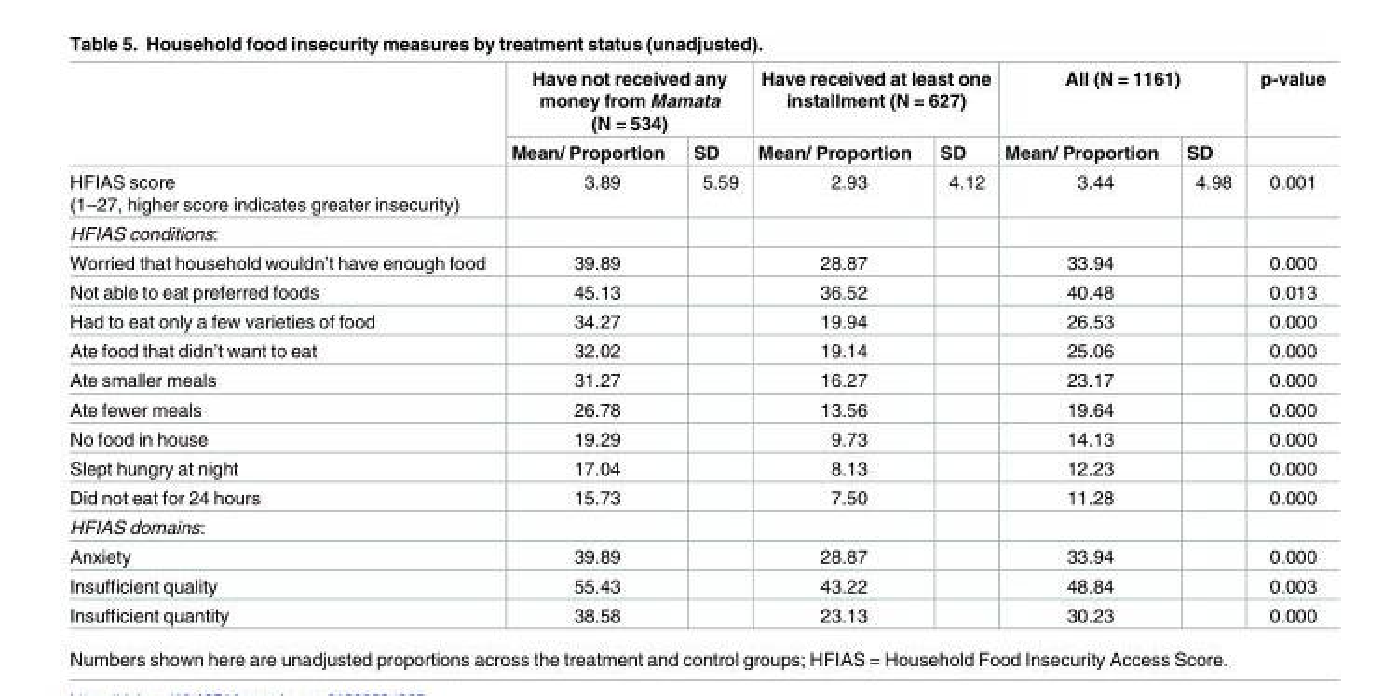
<table><thead><tr><td rowspan="2"></td><td colspan="2">Have not received any money from Mamata (N = 534)</td><td colspan="2">Have received at least one installment (N = 627)</td><td colspan="2">All (N = 1161)</td><td rowspan="2">p-value</td></tr><tr><td>Mean/ Proportion</td><td>SD</td><td>Mean/ Proportion</td><td>SD</td><td>Mean/ Proportion</td><td>SD</td></tr></thead><tbody><tr><td>HFIAS score (1–27, higher score indicates greater insecurity)</td><td>3.89</td><td>5.59</td><td>2.93</td><td>4.12</td><td>3.44</td><td>4.98</td><td>0.001</td></tr><tr><td colspan="8">HFIAS conditions:</td></tr><tr><td>Worried that household wouldn’t have enough food</td><td>39.89</td><td></td><td>28.87</td><td></td><td>33.94</td><td></td><td>0.000</td></tr><tr><td>Not able to eat preferred foods</td><td>45.13</td><td></td><td>36.52</td><td></td><td>40.48</td><td></td><td>0.013</td></tr><tr><td>Had to eat only a few varieties of food</td><td>34.27</td><td></td><td>19.94</td><td></td><td>26.53</td><td></td><td>0.000</td></tr><tr><td>Ate food that didn’t want to eat</td><td>32.02</td><td></td><td>19.14</td><td></td><td>25.06</td><td></td><td>0.000</td></tr><tr><td>Ate smaller meals</td><td>31.27</td><td></td><td>16.27</td><td></td><td>23.17</td><td></td><td>0.000</td></tr><tr><td>Ate fewer meals</td><td>26.78</td><td></td><td>13.56</td><td></td><td>19.64</td><td></td><td>0.000</td></tr><tr><td>No food in house</td><td>19.29</td><td></td><td>9.73</td><td></td><td>14.13</td><td></td><td>0.000</td></tr><tr><td>Slept hungry at night</td><td>17.04</td><td></td><td>8.13</td><td></td><td>12.23</td><td></td><td>0.000</td></tr><tr><td>Did not eat for 24 hours</td><td>15.73</td><td></td><td>7.50</td><td></td><td>11.28</td><td></td><td>0.000</td></tr><tr><td colspan="8">HFIAS domains:</td></tr><tr><td>Anxiety</td><td>39.89</td><td></td><td>28.87</td><td></td><td>33.94</td><td></td><td>0.000</td></tr><tr><td>Insufficient quality</td><td>55.43</td><td></td><td>43.22</td><td></td><td>48.84</td><td></td><td>0.003</td></tr><tr><td>Insufficient quantity</td><td>38.58</td><td></td><td>23.13</td><td></td><td>30.23</td><td></td><td>0.000</td></tr></tbody></table>